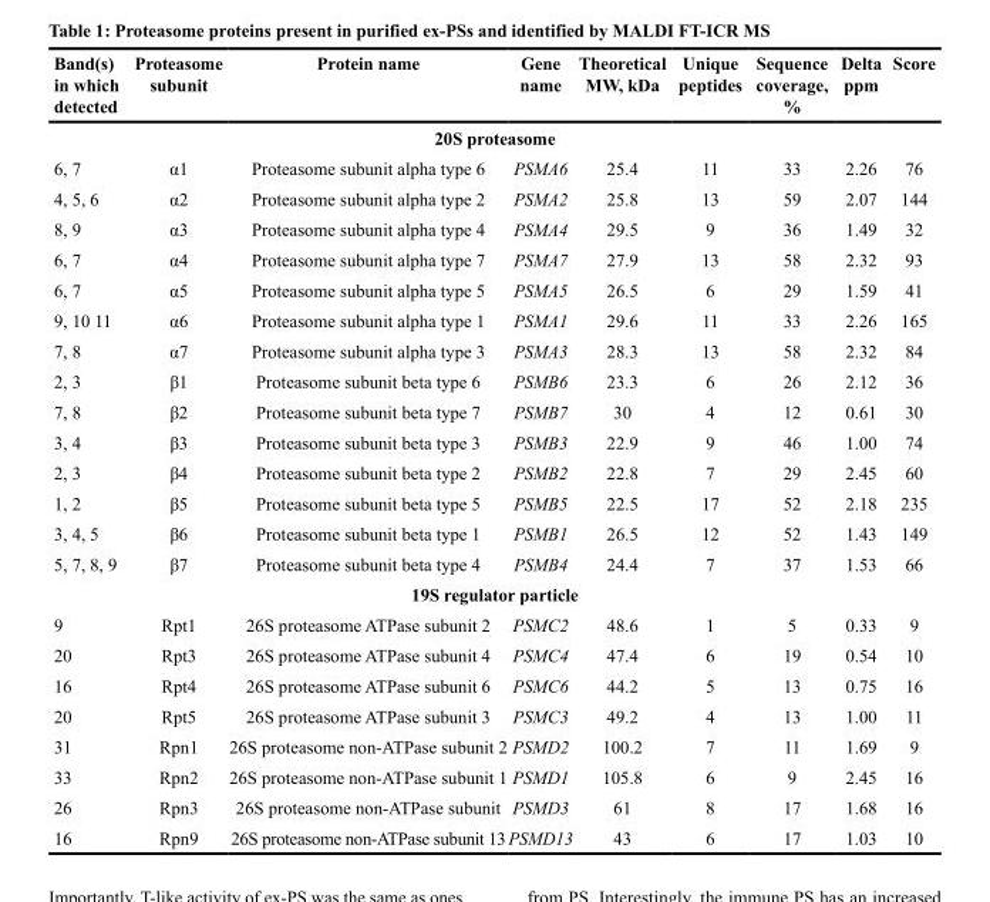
<table><thead><tr><td>Band(s) in which detected</td><td>Proteasome subunit</td><td>Protein name</td><td>Gene name</td><td>Theoretical MW, kDa</td><td>Unique peptides</td><td>Sequence coverage, %</td><td>Delta ppm</td><td>Score</td></tr></thead><tbody><tr><td colspan="9">20S proteasome</td></tr><tr><td>6, 7</td><td>α1</td><td>Proteasome subunit alpha type 6</td><td>PSMA6</td><td>25.4</td><td>11</td><td>33</td><td>2.26</td><td>76</td></tr><tr><td>4, 5, 6</td><td>α2</td><td>Proteasome subunit alpha type 2</td><td>PSMA2</td><td>25.8</td><td>13</td><td>59</td><td>2.07</td><td>144</td></tr><tr><td>8, 9</td><td>α3</td><td>Proteasome subunit alpha type 4</td><td>PSMA4</td><td>29.5</td><td>9</td><td>36</td><td>1.49</td><td>32</td></tr><tr><td>6, 7</td><td>α4</td><td>Proteasome subunit alpha type 7</td><td>PSMA7</td><td>27.9</td><td>13</td><td>58</td><td>2.32</td><td>93</td></tr><tr><td>6, 7</td><td>α5</td><td>Proteasome subunit alpha type 5</td><td>PSMA5</td><td>26.5</td><td>6</td><td>29</td><td>1.59</td><td>41</td></tr><tr><td>9, 10 11</td><td>α6</td><td>Proteasome subunit alpha type 1</td><td>PSMA1</td><td>29.6</td><td>11</td><td>33</td><td>2.26</td><td>165</td></tr><tr><td>7, 8</td><td>α7</td><td>Proteasome subunit alpha type 3</td><td>PSMA3</td><td>28.3</td><td>13</td><td>58</td><td>2.32</td><td>84</td></tr><tr><td>2, 3</td><td>β1</td><td>Proteasome subunit beta type 6</td><td>PSMB6</td><td>23.3</td><td>6</td><td>26</td><td>2.12</td><td>36</td></tr><tr><td>7, 8</td><td>β2</td><td>Proteasome subunit beta type 7</td><td>PSMB7</td><td>30</td><td>4</td><td>12</td><td>0.61</td><td>30</td></tr><tr><td>3, 4</td><td>β3</td><td>Proteasome subunit beta type 3</td><td>PSMB3</td><td>22.9</td><td>9</td><td>46</td><td>1.00</td><td>74</td></tr><tr><td>2, 3</td><td>β4</td><td>Proteasome subunit beta type 2</td><td>PSMB2</td><td>22.8</td><td>7</td><td>29</td><td>2.45</td><td>60</td></tr><tr><td>1, 2</td><td>β5</td><td>Proteasome subunit beta type 5</td><td>PSMB5</td><td>22.5</td><td>17</td><td>52</td><td>2.18</td><td>235</td></tr><tr><td>3, 4, 5</td><td>β6</td><td>Proteasome subunit beta type 1</td><td>PSMB1</td><td>26.5</td><td>12</td><td>52</td><td>1.43</td><td>149</td></tr><tr><td>5, 7, 8, 9</td><td>β7</td><td>Proteasome subunit beta type 4</td><td>PSMB4</td><td>24.4</td><td>7</td><td>37</td><td>1.53</td><td>66</td></tr><tr><td colspan="9">19S regulator particle</td></tr><tr><td>9</td><td>Rpt1</td><td>26S proteasome ATPase subunit 2</td><td>PSMC2</td><td>48.6</td><td>1</td><td>5</td><td>0.33</td><td>9</td></tr><tr><td>20</td><td>Rpt3</td><td>26S proteasome ATPase subunit 4</td><td>PSMC4</td><td>47.4</td><td>6</td><td>19</td><td>0.54</td><td>10</td></tr><tr><td>16</td><td>Rpt4</td><td>26S proteasome ATPase subunit 6</td><td>PSMC6</td><td>44.2</td><td>5</td><td>13</td><td>0.75</td><td>16</td></tr><tr><td>20</td><td>Rpt5</td><td>26S proteasome ATPase subunit 3</td><td>PSMC3</td><td>49.2</td><td>4</td><td>13</td><td>1.00</td><td>11</td></tr><tr><td>31</td><td>Rpn1</td><td>26S proteasome non-ATPase subunit 2</td><td>PSMD2</td><td>100.2</td><td>7</td><td>11</td><td>1.69</td><td>9</td></tr><tr><td>33</td><td>Rpn2</td><td>26S proteasome non-ATPase subunit 1</td><td>PSMD1</td><td>105.8</td><td>6</td><td>9</td><td>2.45</td><td>16</td></tr><tr><td>26</td><td>Rpn3</td><td>26S proteasome non-ATPase subunit</td><td>PSMD3</td><td>61</td><td>8</td><td>17</td><td>1.68</td><td>16</td></tr><tr><td>16</td><td>Rpn9</td><td>26S proteasome non-ATPase subunit 13</td><td>PSMD13</td><td>43</td><td>6</td><td>17</td><td>1.03</td><td>10</td></tr></tbody></table>